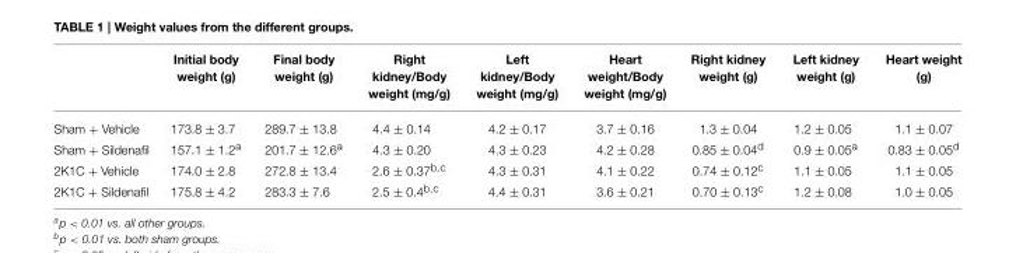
<table><thead><tr><td></td><td>Initial body weight (g)</td><td>Final body weight (g)</td><td>Right kidney/Body weight (mg/g)</td><td>Left kidney/Body weight (mg/g)</td><td>Heart weight/Body weight (mg/g)</td><td>Right kidney weight (g)</td><td>Left kidney weight (g)</td><td>Heart weight (g)</td></tr></thead><tbody><tr><td>Sham + Vehicle</td><td>173.8 ± 3.7</td><td>289.7 ± 13.8</td><td>4.4 ± 0.14</td><td>4.2 ± 0.17</td><td>3.7 ± 0.16</td><td>1.3 ± 0.04</td><td>1.2 ± 0.05</td><td>1.1 ± 0.07</td></tr><tr><td>Sham + Sildenafil</td><td>157.1 ± 1.2<sup>a</sup></td><td>201.7 ± 12.6<sup>a</sup></td><td>4.3 ± 0.20</td><td>4.3 ± 0.23</td><td>4.2 ± 0.28</td><td>0.85 ± 0.04<sup>d</sup></td><td>0.9 ± 0.05<sup>a</sup></td><td>0.83 ± 0.05<sup>d</sup></td></tr><tr><td>2K1C + Vehicle</td><td>174.0 ± 2.8</td><td>272.8 ± 13.4</td><td>2.6 ± 0.37<sup>b</sup>,<sup>c</sup></td><td>4.3 ± 0.31</td><td>4.1 ± 0.22</td><td>0.74 ± 0.12<sup>c</sup></td><td>1.1 ± 0.05</td><td>1.1 ± 0.05</td></tr><tr><td>2K1C + Sildenafil</td><td>175.8 ± 4.2</td><td>283.3 ± 7.6</td><td>2.5 ± 0.4<sup>b</sup>,<sup>c</sup></td><td>4.4 ± 0.31</td><td>3.6 ± 0.21</td><td>0.70 ± 0.13<sup>c</sup></td><td>1.2 ± 0.08</td><td>1.0 ± 0.05</td></tr></tbody></table>